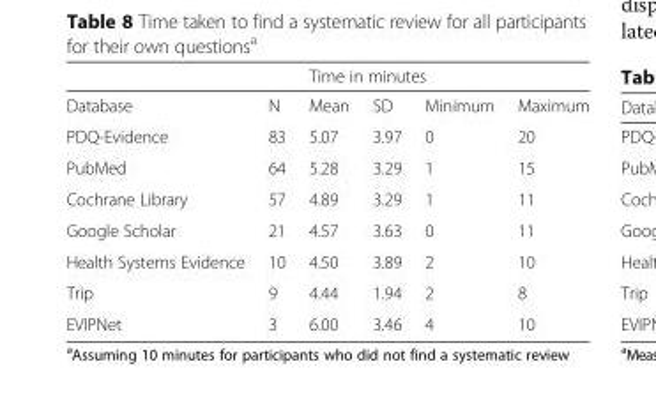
<table><thead><tr><td rowspan="2">Database</td><td rowspan="2">N</td><td colspan="4">Time in minutes</td></tr><tr><td>Mean</td><td>SD</td><td>Minimum</td><td>Maximum</td></tr></thead><tbody><tr><td>PDQ-Evidence</td><td>83</td><td>5.07</td><td>3.97</td><td>0</td><td>20</td></tr><tr><td>PubMed</td><td>64</td><td>5.28</td><td>3.29</td><td>1</td><td>15</td></tr><tr><td>Cochrane Library</td><td>57</td><td>4.89</td><td>3.29</td><td>1</td><td>11</td></tr><tr><td>Google Scholar</td><td>21</td><td>4.57</td><td>3.63</td><td>0</td><td>11</td></tr><tr><td>Health Systems Evidence</td><td>10</td><td>4.50</td><td>3.89</td><td>2</td><td>10</td></tr><tr><td>Trip</td><td>9</td><td>4.44</td><td>1.94</td><td>2</td><td>8</td></tr><tr><td>EVIPNet</td><td>3</td><td>6.00</td><td>3.46</td><td>4</td><td>10</td></tr></tbody></table>